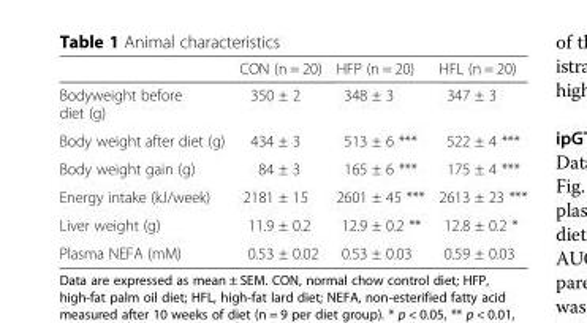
<table><thead><tr><td></td><td>CON (n = 20)</td><td>HFP (n = 20)</td><td>HFL (n = 20)</td></tr></thead><tbody><tr><td>Bodyweight before diet (g)</td><td>350 ± 2</td><td>348 ± 3</td><td>347 ± 3</td></tr><tr><td>Body weight after diet (g)</td><td>434 ± 3</td><td>513 ± 6 ***</td><td>522 ± 4 ***</td></tr><tr><td>Body weight gain (g)</td><td>84 ± 3</td><td>165 ± 6 ***</td><td>175 ± 4 ***</td></tr><tr><td>Energy intake (kJ/week)</td><td>2181 ± 15</td><td>2601 ± 45 ***</td><td>2613 ± 23 ***</td></tr><tr><td>Liver weight (g)</td><td>11.9 ± 0.2</td><td>12.9 ± 0.2 **</td><td>12.8 ± 0.2 *</td></tr><tr><td>Plasma NEFA (mM)</td><td>0.53 ± 0.02</td><td>0.53 ± 0.03</td><td>0.59 ± 0.03</td></tr></tbody></table>